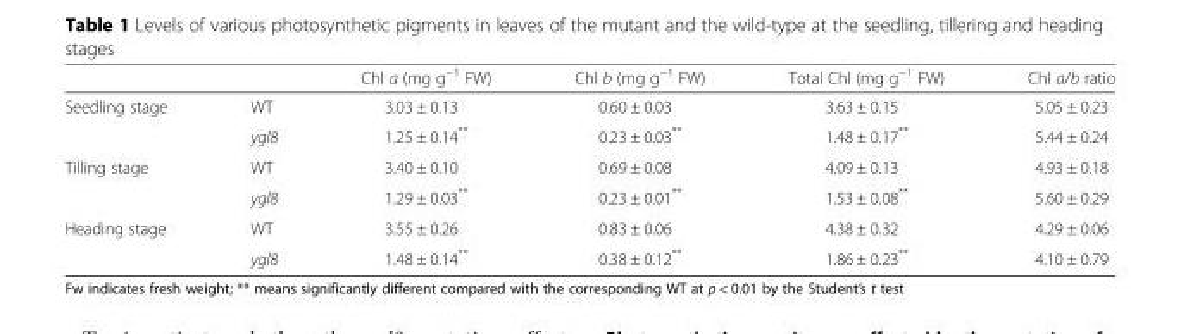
<table><thead><tr><td></td><td></td><td>Chl a (mg g<sup>−1</sup> FW)</td><td>Chl b (mg g<sup>−1</sup> FW)</td><td>Total Chl (mg g<sup>−1</sup> FW)</td><td>Chl a/b ratio</td></tr></thead><tbody><tr><td rowspan="2">Seedling stage</td><td>WT</td><td>3.03 ± 0.13</td><td>0.60 ± 0.03</td><td>3.63 ± 0.15</td><td>5.05 ± 0.23</td></tr><tr><td>ygl8</td><td>1.25 ± 0.14**</td><td>0.23 ± 0.03**</td><td>1.48 ± 0.17**</td><td>5.44 ± 0.24</td></tr><tr><td rowspan="2">Tilling stage</td><td>WT</td><td>3.40 ± 0.10</td><td>0.69 ± 0.08</td><td>4.09 ± 0.13</td><td>4.93 ± 0.18</td></tr><tr><td>ygl8</td><td>1.29 ± 0.03**</td><td>0.23 ± 0.01**</td><td>1.53 ± 0.08**</td><td>5.60 ± 0.29</td></tr><tr><td rowspan="2">Heading stage</td><td>WT</td><td>3.55 ± 0.26</td><td>0.83 ± 0.06</td><td>4.38 ± 0.32</td><td>4.29 ± 0.06</td></tr><tr><td>ygl8</td><td>1.48 ± 0.14**</td><td>0.38 ± 0.12**</td><td>1.86 ± 0.23**</td><td>4.10 ± 0.79</td></tr></tbody></table>